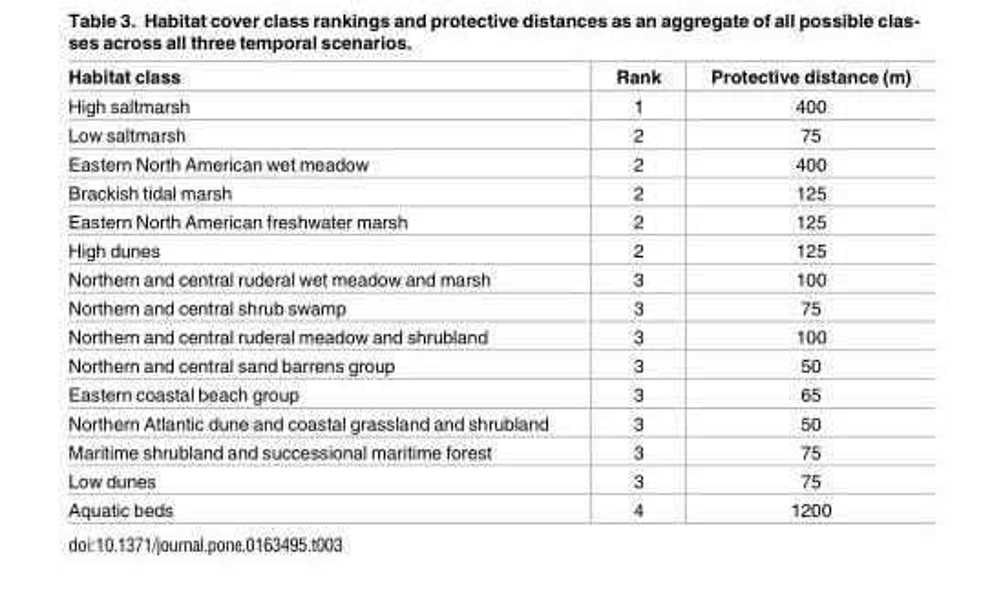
<table><thead><tr><td>Habitat class</td><td>Rank</td><td>Protective distance (m)</td></tr></thead><tbody><tr><td>High saltmarsh</td><td>1</td><td>400</td></tr><tr><td>Low saltmarsh</td><td>2</td><td>75</td></tr><tr><td>Eastern North American wet meadow</td><td>2</td><td>400</td></tr><tr><td>Brackish tidal marsh</td><td>2</td><td>125</td></tr><tr><td>Eastern North American freshwater marsh</td><td>2</td><td>125</td></tr><tr><td>High dunes</td><td>2</td><td>125</td></tr><tr><td>Northern and central ruderal wet meadow and marsh</td><td>3</td><td>100</td></tr><tr><td>Northern and central shrub swamp</td><td>3</td><td>75</td></tr><tr><td>Northern and central ruderal meadow and shrubland</td><td>3</td><td>100</td></tr><tr><td>Northern and central sand barrens group</td><td>3</td><td>50</td></tr><tr><td>Eastern coastal beach group</td><td>3</td><td>65</td></tr><tr><td>Northern Atlantic dune and coastal grassland and shrubland</td><td>3</td><td>50</td></tr><tr><td>Maritime shrubland and successional maritime forest</td><td>3</td><td>75</td></tr><tr><td>Low dunes</td><td>3</td><td>75</td></tr><tr><td>Aquatic beds</td><td>4</td><td>1200</td></tr></tbody></table>